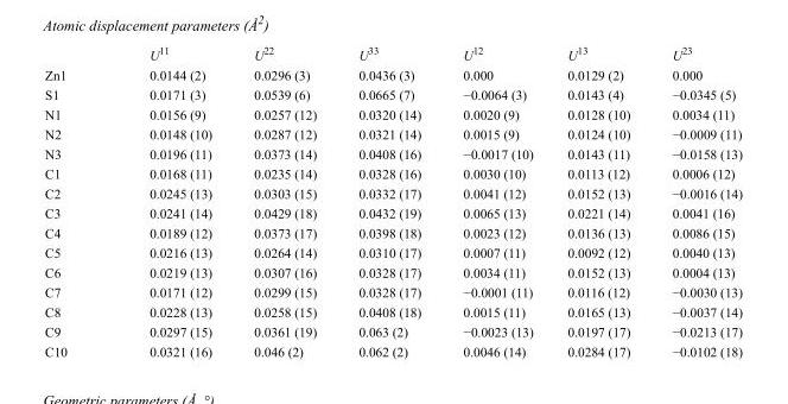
<table><thead><tr><td></td><td>U<sup>11</sup></td><td>U<sup>22</sup></td><td>U<sup>33</sup></td><td>U<sup>12</sup></td><td>U<sup>13</sup></td><td>U<sup>23</sup></td></tr></thead><tbody><tr><td>Zn1</td><td>0.0144 (2)</td><td>0.0296 (3)</td><td>0.0436 (3)</td><td>0.000</td><td>0.0129 (2)</td><td>0.000</td></tr><tr><td>S1</td><td>0.0171 (3)</td><td>0.0539 (6)</td><td>0.0665 (7)</td><td>−0.0064 (3)</td><td>0.0143 (4)</td><td>−0.0345 (5)</td></tr><tr><td>N1</td><td>0.0156 (9)</td><td>0.0257 (12)</td><td>0.0320 (14)</td><td>0.0020 (9)</td><td>0.0128 (10)</td><td>0.0034 (11)</td></tr><tr><td>N2</td><td>0.0148 (10)</td><td>0.0287 (12)</td><td>0.0321 (14)</td><td>0.0015 (9)</td><td>0.0124 (10)</td><td>−0.0009 (11)</td></tr><tr><td>N3</td><td>0.0196 (11)</td><td>0.0373 (14)</td><td>0.0408 (16)</td><td>−0.0017 (10)</td><td>0.0143 (11)</td><td>−0.0158 (13)</td></tr><tr><td>C1</td><td>0.0168 (11)</td><td>0.0235 (14)</td><td>0.0328 (16)</td><td>0.0030 (10)</td><td>0.0113 (12)</td><td>0.0006 (12)</td></tr><tr><td>C2</td><td>0.0245 (13)</td><td>0.0303 (15)</td><td>0.0332 (17)</td><td>0.0041 (12)</td><td>0.0152 (13)</td><td>−0.0016 (14)</td></tr><tr><td>C3</td><td>0.0241 (14)</td><td>0.0429 (18)</td><td>0.0432 (19)</td><td>0.0065 (13)</td><td>0.0221 (14)</td><td>0.0041 (16)</td></tr><tr><td>C4</td><td>0.0189 (12)</td><td>0.0373 (17)</td><td>0.0398 (18)</td><td>0.0023 (12)</td><td>0.0136 (13)</td><td>0.0086 (15)</td></tr><tr><td>C5</td><td>0.0216 (13)</td><td>0.0264 (14)</td><td>0.0310 (17)</td><td>0.0007 (11)</td><td>0.0092 (12)</td><td>0.0040 (13)</td></tr><tr><td>C6</td><td>0.0219 (13)</td><td>0.0307 (16)</td><td>0.0328 (17)</td><td>0.0034 (11)</td><td>0.0152 (13)</td><td>0.0004 (13)</td></tr><tr><td>C7</td><td>0.0171 (12)</td><td>0.0299 (15)</td><td>0.0328 (17)</td><td>−0.0001 (11)</td><td>0.0116 (12)</td><td>−0.0030 (13)</td></tr><tr><td>C8</td><td>0.0228 (13)</td><td>0.0258 (15)</td><td>0.0408 (18)</td><td>0.0015 (11)</td><td>0.0165 (13)</td><td>−0.0037 (14)</td></tr><tr><td>C9</td><td>0.0297 (15)</td><td>0.0361 (19)</td><td>0.063 (2)</td><td>−0.0023 (13)</td><td>0.0197 (17)</td><td>−0.0213 (17)</td></tr><tr><td>C10</td><td>0.0321 (16)</td><td>0.046 (2)</td><td>0.062 (2)</td><td>0.0046 (14)</td><td>0.0284 (17)</td><td>−0.0102 (18)</td></tr></tbody></table>